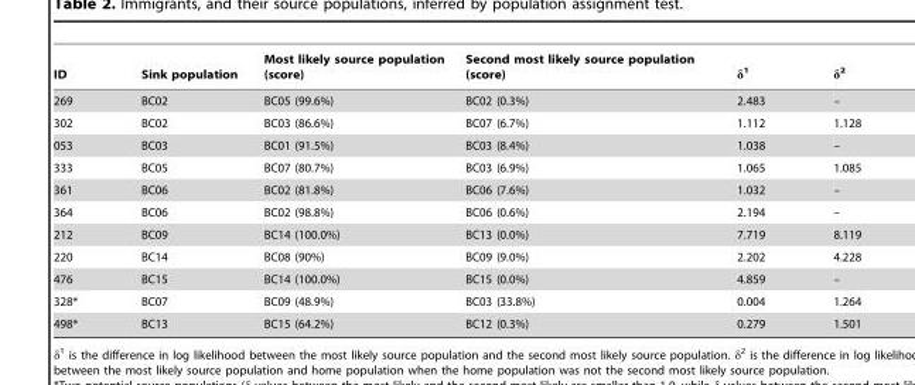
<table><thead><tr><td>ID</td><td>Sink population</td><td>Most likely source population (score)</td><td>Second most likely source population (score)</td><td>δ<sup>1</sup></td><td>δ<sup>2</sup></td></tr></thead><tbody><tr><td>269</td><td>BC02</td><td>BC05 (99.6%)</td><td>BC02 (0.3%)</td><td>2.483</td><td>–</td></tr><tr><td>302</td><td>BC02</td><td>BC03 (86.6%)</td><td>BC07 (6.7%)</td><td>1.112</td><td>1.128</td></tr><tr><td>053</td><td>BC03</td><td>BC01 (91.5%)</td><td>BC03 (8.4%)</td><td>1.038</td><td>–</td></tr><tr><td>333</td><td>BC05</td><td>BC07 (80.7%)</td><td>BC03 (6.9%)</td><td>1.065</td><td>1.085</td></tr><tr><td>361</td><td>BC06</td><td>BC02 (81.8%)</td><td>BC06 (7.6%)</td><td>1.032</td><td>–</td></tr><tr><td>364</td><td>BC06</td><td>BC02 (98.8%)</td><td>BC06 (0.6%)</td><td>2.194</td><td>–</td></tr><tr><td>212</td><td>BC09</td><td>BC14 (100.0%)</td><td>BC13 (0.0%)</td><td>7.719</td><td>8.119</td></tr><tr><td>220</td><td>BC14</td><td>BC08 (90%)</td><td>BC09 (9.0%)</td><td>2.202</td><td>4.228</td></tr><tr><td>476</td><td>BC15</td><td>BC14 (100.0%)</td><td>BC15 (0.0%)</td><td>4.859</td><td>–</td></tr><tr><td>328*</td><td>BC07</td><td>BC09 (48.9%)</td><td>BC03 (33.8%)</td><td>0.004</td><td>1.264</td></tr><tr><td>498*</td><td>BC13</td><td>BC15 (64.2%)</td><td>BC12 (0.3%)</td><td>0.279</td><td>1.501</td></tr></tbody></table>